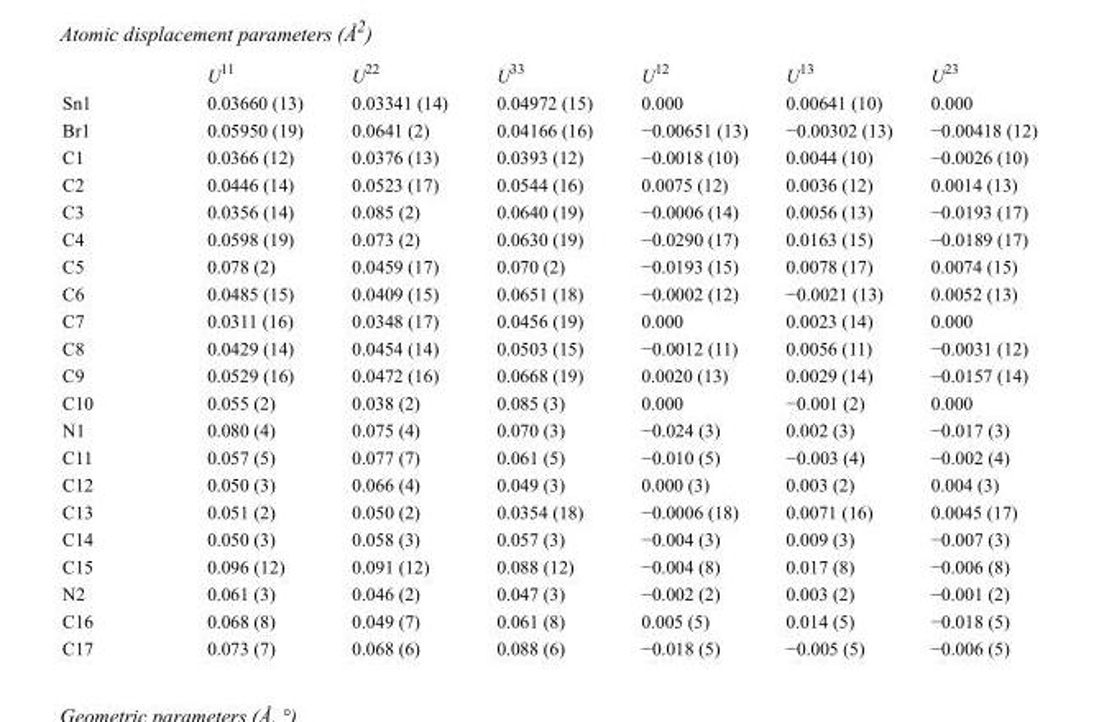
<table><thead><tr><td></td><td>U<sup>11</sup></td><td>U<sup>22</sup></td><td>U<sup>33</sup></td><td>U<sup>12</sup></td><td>U<sup>13</sup></td><td>U<sup>23</sup></td></tr></thead><tbody><tr><td>Sn1</td><td>0.03660 (13)</td><td>0.03341 (14)</td><td>0.04972 (15)</td><td>0.000</td><td>0.00641 (10)</td><td>0.000</td></tr><tr><td>Br1</td><td>0.05950 (19)</td><td>0.0641 (2)</td><td>0.04166 (16)</td><td>−0.00651 (13)</td><td>−0.00302 (13)</td><td>−0.00418 (12)</td></tr><tr><td>C1</td><td>0.0366 (12)</td><td>0.0376 (13)</td><td>0.0393 (12)</td><td>−0.0018 (10)</td><td>0.0044 (10)</td><td>−0.0026 (10)</td></tr><tr><td>C2</td><td>0.0446 (14)</td><td>0.0523 (17)</td><td>0.0544 (16)</td><td>0.0075 (12)</td><td>0.0036 (12)</td><td>0.0014 (13)</td></tr><tr><td>C3</td><td>0.0356 (14)</td><td>0.085 (2)</td><td>0.0640 (19)</td><td>−0.0006 (14)</td><td>0.0056 (13)</td><td>−0.0193 (17)</td></tr><tr><td>C4</td><td>0.0598 (19)</td><td>0.073 (2)</td><td>0.0630 (19)</td><td>−0.0290 (17)</td><td>0.0163 (15)</td><td>−0.0189 (17)</td></tr><tr><td>C5</td><td>0.078 (2)</td><td>0.0459 (17)</td><td>0.070 (2)</td><td>−0.0193 (15)</td><td>0.0078 (17)</td><td>0.0074 (15)</td></tr><tr><td>C6</td><td>0.0485 (15)</td><td>0.0409 (15)</td><td>0.0651 (18)</td><td>−0.0002 (12)</td><td>−0.0021 (13)</td><td>0.0052 (13)</td></tr><tr><td>C7</td><td>0.0311 (16)</td><td>0.0348 (17)</td><td>0.0456 (19)</td><td>0.000</td><td>0.0023 (14)</td><td>0.000</td></tr><tr><td>C8</td><td>0.0429 (14)</td><td>0.0454 (14)</td><td>0.0503 (15)</td><td>−0.0012 (11)</td><td>0.0056 (11)</td><td>−0.0031 (12)</td></tr><tr><td>C9</td><td>0.0529 (16)</td><td>0.0472 (16)</td><td>0.0668 (19)</td><td>0.0020 (13)</td><td>0.0029 (14)</td><td>−0.0157 (14)</td></tr><tr><td>C10</td><td>0.055 (2)</td><td>0.038 (2)</td><td>0.085 (3)</td><td>0.000</td><td>−0.001 (2)</td><td>0.000</td></tr><tr><td>N1</td><td>0.080 (4)</td><td>0.075 (4)</td><td>0.070 (3)</td><td>−0.024 (3)</td><td>0.002 (3)</td><td>−0.017 (3)</td></tr><tr><td>C11</td><td>0.057 (5)</td><td>0.077 (7)</td><td>0.061 (5)</td><td>−0.010 (5)</td><td>−0.003 (4)</td><td>−0.002 (4)</td></tr><tr><td>C12</td><td>0.050 (3)</td><td>0.066 (4)</td><td>0.049 (3)</td><td>0.000 (3)</td><td>0.003 (2)</td><td>0.004 (3)</td></tr><tr><td>C13</td><td>0.051 (2)</td><td>0.050 (2)</td><td>0.0354 (18)</td><td>−0.0006 (18)</td><td>0.0071 (16)</td><td>0.0045 (17)</td></tr><tr><td>C14</td><td>0.050 (3)</td><td>0.058 (3)</td><td>0.057 (3)</td><td>−0.004 (3)</td><td>0.009 (3)</td><td>−0.007 (3)</td></tr><tr><td>C15</td><td>0.096 (12)</td><td>0.091 (12)</td><td>0.088 (12)</td><td>−0.004 (8)</td><td>0.017 (8)</td><td>−0.006 (8)</td></tr><tr><td>N2</td><td>0.061 (3)</td><td>0.046 (2)</td><td>0.047 (3)</td><td>−0.002 (2)</td><td>0.003 (2)</td><td>−0.001 (2)</td></tr><tr><td>C16</td><td>0.068 (8)</td><td>0.049 (7)</td><td>0.061 (8)</td><td>0.005 (5)</td><td>0.014 (5)</td><td>−0.018 (5)</td></tr><tr><td>C17</td><td>0.073 (7)</td><td>0.068 (6)</td><td>0.088 (6)</td><td>−0.018 (5)</td><td>−0.005 (5)</td><td>−0.006 (5)</td></tr></tbody></table>